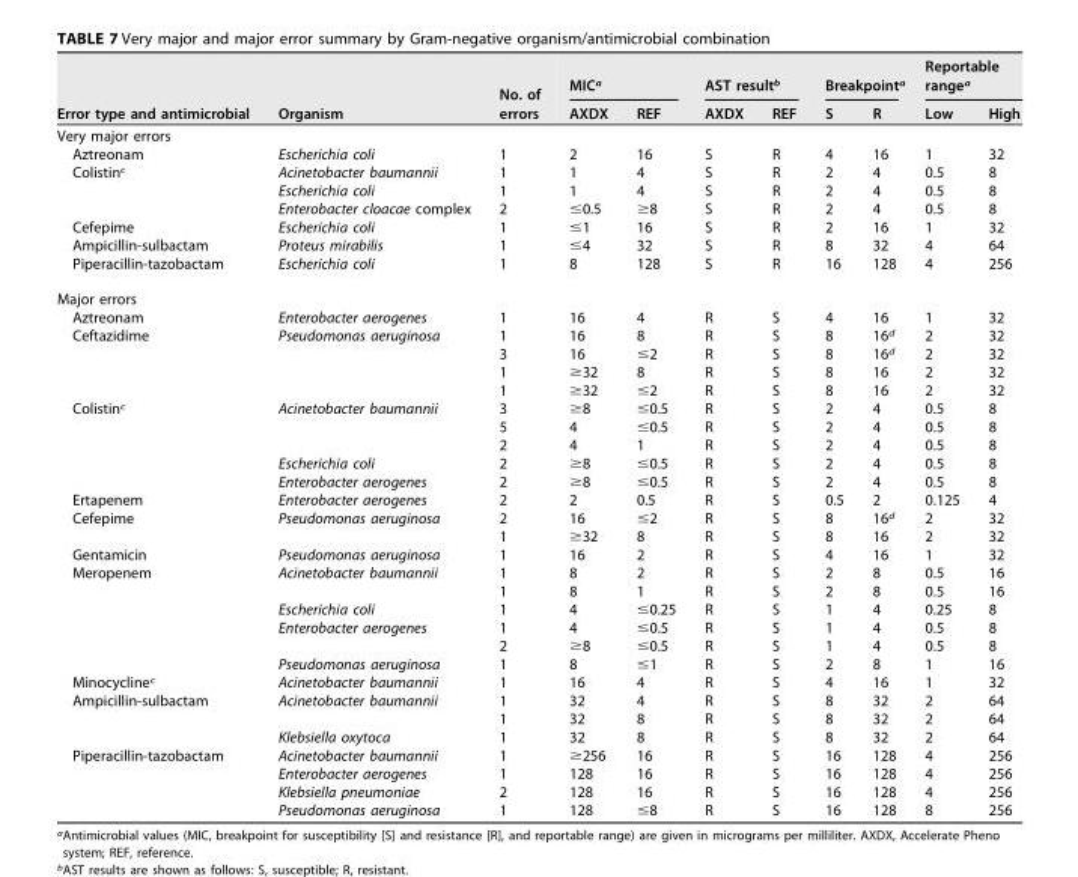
<table><thead><tr><td rowspan="2">Error type and antimicrobial</td><td rowspan="2">Organism</td><td rowspan="2">No. of errors</td><td colspan="2">MIC<sup>a</sup></td><td colspan="2">AST result<sup>b</sup></td><td colspan="2">Breakpoint<sup>a</sup></td><td colspan="2">Reportable range<sup>a</sup></td></tr><tr><td>AXDX</td><td>REF</td><td>AXDX</td><td>REF</td><td>S</td><td>R</td><td>Low</td><td>High</td></tr></thead><tbody><tr><td colspan="11">Very major errors</td></tr><tr><td>Aztreonam</td><td>Escherichia coli</td><td>1</td><td>2</td><td>16</td><td>S</td><td>R</td><td>4</td><td>16</td><td>1</td><td>32</td></tr><tr><td rowspan="3">Colistin<sup>c</sup></td><td>Acinetobacter baumannii</td><td>1</td><td>1</td><td>4</td><td>S</td><td>R</td><td>2</td><td>4</td><td>0.5</td><td>8</td></tr><tr><td>Escherichia coli</td><td>1</td><td>1</td><td>4</td><td>S</td><td>R</td><td>2</td><td>4</td><td>0.5</td><td>8</td></tr><tr><td>Enterobacter cloacae complex</td><td>2</td><td>≤0.5</td><td>≥8</td><td>S</td><td>R</td><td>2</td><td>4</td><td>0.5</td><td>8</td></tr><tr><td>Cefepime</td><td>Escherichia coli</td><td>1</td><td>≤1</td><td>16</td><td>S</td><td>R</td><td>2</td><td>16</td><td>1</td><td>32</td></tr><tr><td>Ampicillin-sulbactam</td><td>Proteus mirabilis</td><td>1</td><td>≤4</td><td>32</td><td>S</td><td>R</td><td>8</td><td>32</td><td>4</td><td>64</td></tr><tr><td>Piperacillin-tazobactam</td><td>Escherichia coli</td><td>1</td><td>8</td><td>128</td><td>S</td><td>R</td><td>16</td><td>128</td><td>4</td><td>256</td></tr><tr><td colspan="11">Major errors</td></tr><tr><td>Aztreonam</td><td>Enterobacter aerogenes</td><td>1</td><td>16</td><td>4</td><td>R</td><td>S</td><td>4</td><td>16</td><td>1</td><td>32</td></tr><tr><td rowspan="4">Ceftazidime</td><td>Pseudomonas aeruginosa</td><td>1</td><td>16</td><td>8</td><td>R</td><td>S</td><td>8</td><td>16<sup>d</sup></td><td>2</td><td>32</td></tr><tr><td></td><td>3</td><td>16</td><td>≤2</td><td>R</td><td>S</td><td>8</td><td>16<sup>d</sup></td><td>2</td><td>32</td></tr><tr><td></td><td>1</td><td>≥32</td><td>8</td><td>R</td><td>S</td><td>8</td><td>16</td><td>2</td><td>32</td></tr><tr><td></td><td>1</td><td>≥32</td><td>≤2</td><td>R</td><td>S</td><td>8</td><td>16</td><td>2</td><td>32</td></tr><tr><td rowspan="5">Colistin<sup>c</sup></td><td>Acinetobacter baumannii</td><td>3</td><td>≥8</td><td>≤0.5</td><td>R</td><td>S</td><td>2</td><td>4</td><td>0.5</td><td>8</td></tr><tr><td></td><td>5</td><td>4</td><td>≤0.5</td><td>R</td><td>S</td><td>2</td><td>4</td><td>0.5</td><td>8</td></tr><tr><td></td><td>2</td><td>4</td><td>1</td><td>R</td><td>S</td><td>2</td><td>4</td><td>0.5</td><td>8</td></tr><tr><td>Escherichia coli</td><td>2</td><td>≥8</td><td>≤0.5</td><td>R</td><td>S</td><td>2</td><td>4</td><td>0.5</td><td>8</td></tr><tr><td>Enterobacter aerogenes</td><td>2</td><td>≥8</td><td>≤0.5</td><td>R</td><td>S</td><td>2</td><td>4</td><td>0.5</td><td>8</td></tr><tr><td>Ertapenem</td><td>Enterobacter aerogenes</td><td>2</td><td>2</td><td>0.5</td><td>R</td><td>S</td><td>0.5</td><td>2</td><td>0.125</td><td>4</td></tr><tr><td rowspan="2">Cefepime</td><td>Pseudomonas aeruginosa</td><td>2</td><td>16</td><td>≤2</td><td>R</td><td>S</td><td>8</td><td>16<sup>d</sup></td><td>2</td><td>32</td></tr><tr><td></td><td>1</td><td>≥32</td><td>8</td><td>R</td><td>S</td><td>8</td><td>16</td><td>2</td><td>32</td></tr><tr><td>Gentamicin</td><td>Pseudomonas aeruginosa</td><td>1</td><td>16</td><td>2</td><td>R</td><td>S</td><td>4</td><td>16</td><td>1</td><td>32</td></tr><tr><td rowspan="6">Meropenem</td><td>Acinetobacter baumannii</td><td>1</td><td>8</td><td>2</td><td>R</td><td>S</td><td>2</td><td>8</td><td>0.5</td><td>16</td></tr><tr><td></td><td>1</td><td>8</td><td>1</td><td>R</td><td>S</td><td>2</td><td>8</td><td>0.5</td><td>16</td></tr><tr><td>Escherichia coli</td><td>1</td><td>4</td><td>≤0.25</td><td>R</td><td>S</td><td>1</td><td>4</td><td>0.25</td><td>8</td></tr><tr><td>Enterobacter aerogenes</td><td>1</td><td>4</td><td>≤0.5</td><td>R</td><td>S</td><td>1</td><td>4</td><td>0.5</td><td>8</td></tr><tr><td></td><td>2</td><td>≥8</td><td>≤0.5</td><td>R</td><td>S</td><td>1</td><td>4</td><td>0.5</td><td>8</td></tr><tr><td>Pseudomonas aeruginosa</td><td>1</td><td>8</td><td>≤1</td><td>R</td><td>S</td><td>2</td><td>8</td><td>1</td><td>16</td></tr><tr><td>Minocycline<sup>c</sup></td><td>Acinetobacter baumannii</td><td>1</td><td>16</td><td>4</td><td>R</td><td>S</td><td>4</td><td>16</td><td>1</td><td>32</td></tr><tr><td rowspan="3">Ampicillin-sulbactam</td><td>Acinetobacter baumannii</td><td>1</td><td>32</td><td>4</td><td>R</td><td>S</td><td>8</td><td>32</td><td>2</td><td>64</td></tr><tr><td></td><td>1</td><td>32</td><td>8</td><td>R</td><td>S</td><td>8</td><td>32</td><td>2</td><td>64</td></tr><tr><td>Klebsiella oxytoca</td><td>1</td><td>32</td><td>8</td><td>R</td><td>S</td><td>8</td><td>32</td><td>2</td><td>64</td></tr><tr><td rowspan="4">Piperacillin-tazobactam</td><td>Acinetobacter baumannii</td><td>1</td><td>≥256</td><td>16</td><td>R</td><td>S</td><td>16</td><td>128</td><td>4</td><td>256</td></tr><tr><td>Enterobacter aerogenes</td><td>1</td><td>128</td><td>16</td><td>R</td><td>S</td><td>16</td><td>128</td><td>4</td><td>256</td></tr><tr><td>Klebsiella pneumoniae</td><td>2</td><td>128</td><td>16</td><td>R</td><td>S</td><td>16</td><td>128</td><td>4</td><td>256</td></tr><tr><td>Pseudomonas aeruginosa</td><td>1</td><td>128</td><td>≤8</td><td>R</td><td>S</td><td>16</td><td>128</td><td>8</td><td>256</td></tr></tbody></table>